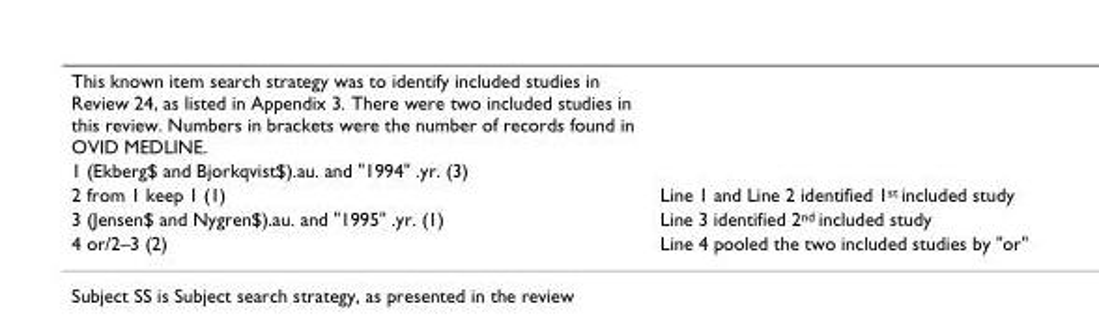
<table><tbody><tr><td colspan="2">This known item search strategy was to identify included studies in Review 24, as listed in Appendix 3. There were two included studies in this review. Numbers in brackets were the number of records found in OVID MEDLINE.</td></tr><tr><td colspan="2">1 (Ekberg$ and Bjorkqvist$).au. and &quot;1994&quot; .yr. (3)</td></tr><tr><td>2 from 1 keep 1 (1)</td><td>Line 1 and Line 2 identified 1<sup>st</sup> included study</td></tr><tr><td>3 (Jensen$ and Nygren$).au. and &quot;1995&quot; .yr. (1)</td><td>Line 3 identified 2<sup>nd</sup> included study</td></tr><tr><td>4 or/2–3 (2)</td><td>Line 4 pooled the two included studies by &quot;or&quot;</td></tr></tbody></table>